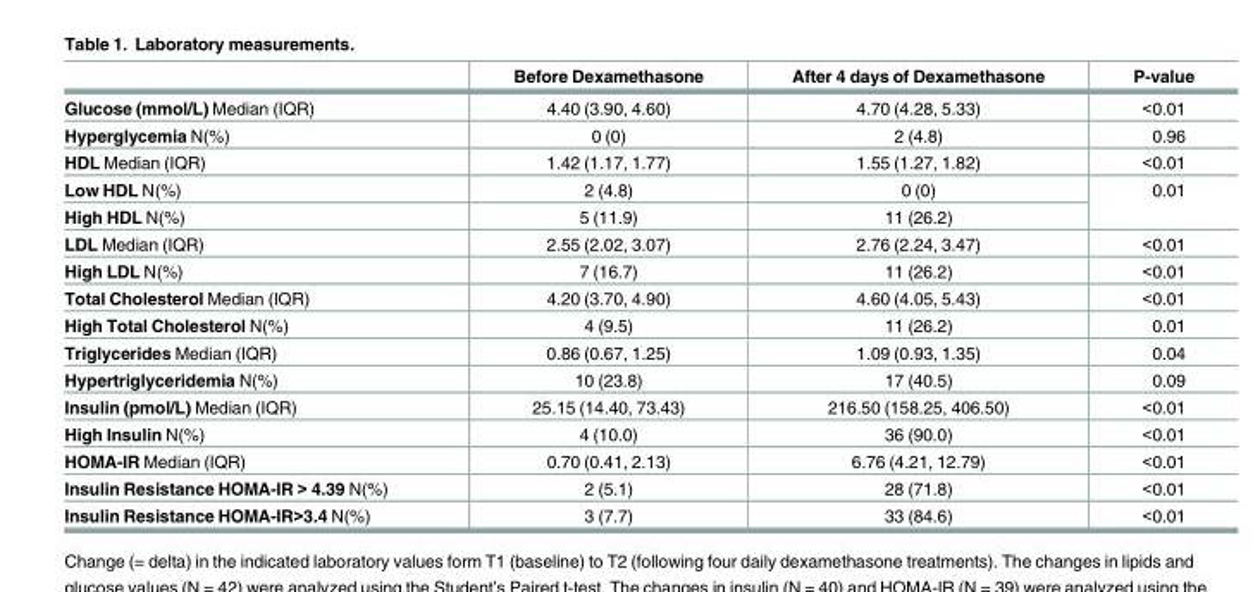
<table><thead><tr><td></td><td>Before Dexamethasone</td><td>After 4 days of Dexamethasone</td><td>P-value</td></tr></thead><tbody><tr><td>Glucose (mmol/L) Median (IQR)</td><td>4.40 (3.90, 4.60)</td><td>4.70 (4.28, 5.33)</td><td>&lt;0.01</td></tr><tr><td>Hyperglycemia N(%)</td><td>0 (0)</td><td>2 (4.8)</td><td>0.96</td></tr><tr><td>HDL Median (IQR)</td><td>1.42 (1.17, 1.77)</td><td>1.55 (1.27, 1.82)</td><td>&lt;0.01</td></tr><tr><td>Low HDL N(%)</td><td>2 (4.8)</td><td>0 (0)</td><td rowspan="2">0.01</td></tr><tr><td>High HDL N(%)</td><td>5 (11.9)</td><td>11 (26.2)</td></tr><tr><td>LDL Median (IQR)</td><td>2.55 (2.02, 3.07)</td><td>2.76 (2.24, 3.47)</td><td>&lt;0.01</td></tr><tr><td>High LDL N(%)</td><td>7 (16.7)</td><td>11 (26.2)</td><td>&lt;0.01</td></tr><tr><td>Total Cholesterol Median (IQR)</td><td>4.20 (3.70, 4.90)</td><td>4.60 (4.05, 5.43)</td><td>&lt;0.01</td></tr><tr><td>High Total Cholesterol N(%)</td><td>4 (9.5)</td><td>11 (26.2)</td><td>0.01</td></tr><tr><td>Triglycerides Median (IQR)</td><td>0.86 (0.67, 1.25)</td><td>1.09 (0.93, 1.35)</td><td>0.04</td></tr><tr><td>Hypertriglyceridemia N(%)</td><td>10 (23.8)</td><td>17 (40.5)</td><td>0.09</td></tr><tr><td>Insulin (pmol/L) Median (IQR)</td><td>25.15 (14.40, 73.43)</td><td>216.50 (158.25, 406.50)</td><td>&lt;0.01</td></tr><tr><td>High Insulin N(%)</td><td>4 (10.0)</td><td>36 (90.0)</td><td>&lt;0.01</td></tr><tr><td>HOMA-IR Median (IQR)</td><td>0.70 (0.41, 2.13)</td><td>6.76 (4.21, 12.79)</td><td>&lt;0.01</td></tr><tr><td>Insulin Resistance HOMA-IR &gt; 4.39 N(%)</td><td>2 (5.1)</td><td>28 (71.8)</td><td>&lt;0.01</td></tr><tr><td>Insulin Resistance HOMA-IR&gt;3.4 N(%)</td><td>3 (7.7)</td><td>33 (84.6)</td><td>&lt;0.01</td></tr></tbody></table>